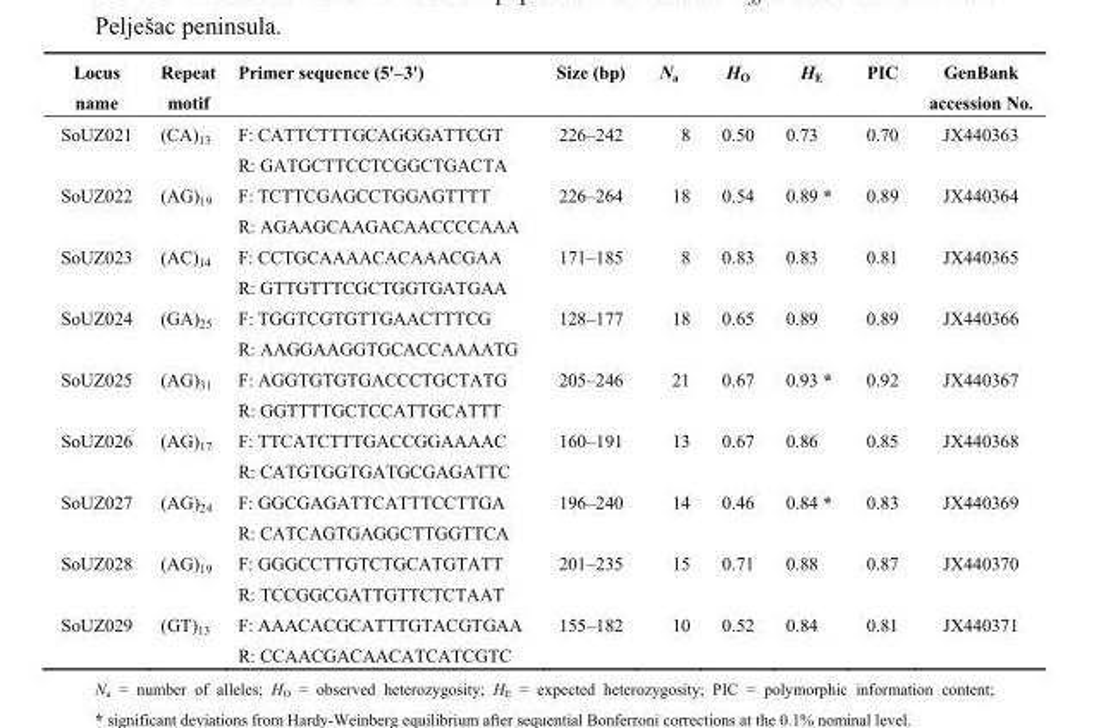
<table><thead><tr><td>Locus name</td><td>Repeat motif</td><td>Primer sequence (5&#x27;–3&#x27;)</td><td>Size (bp)</td><td>N<sub>a</sub></td><td>H<sub>O</sub></td><td>H<sub>E</sub></td><td>PIC</td><td>GenBank accession No.</td></tr></thead><tbody><tr><td>SoUZ021</td><td>(CA)<sub>13</sub></td><td>F: CATTCTTTGCAGGGATTCGT R: GATGCTTCCTCGGCTGACTA</td><td>226–242</td><td>8</td><td>0.50</td><td>0.73</td><td>0.70</td><td>JX440363</td></tr><tr><td>SoUZ022</td><td>(AG)<sub>19</sub></td><td>F: TCTTCGAGCCTGGAGTTTT R: AGAAGCAAGACAACCCCAAA</td><td>226–264</td><td>18</td><td>0.54</td><td>0.89 *</td><td>0.89</td><td>JX440364</td></tr><tr><td>SoUZ023</td><td>(AC)<sub>14</sub></td><td>F: CCTGCAAAACACAAACGAA R: GTTGTTTCGCTGGTGATGAA</td><td>171–185</td><td>8</td><td>0.83</td><td>0.83</td><td>0.81</td><td>JX440365</td></tr><tr><td>SoUZ024</td><td>(GA)<sub>25</sub></td><td>F: TGGTCGTGTTGAACTTTCG R: AAGGAAGGTGCACCAAAATG</td><td>128–177</td><td>18</td><td>0.65</td><td>0.89</td><td>0.89</td><td>JX440366</td></tr><tr><td>SoUZ025</td><td>(AG)<sub>31</sub></td><td>F: AGGTGTGTGACCCTGCTATG R: GGTTTTGCTCCATTGCATTT</td><td>205–246</td><td>21</td><td>0.67</td><td>0.93 *</td><td>0.92</td><td>JX440367</td></tr><tr><td>SoUZ026</td><td>(AG)<sub>17</sub></td><td>F: TTCATCTTTGACCGGAAAAC R: CATGTGGTGATGCGAGATTC</td><td>160–191</td><td>13</td><td>0.67</td><td>0.86</td><td>0.85</td><td>JX440368</td></tr><tr><td>SoUZ027</td><td>(AG)<sub>24</sub></td><td>F: GGCGAGATTCATTTCCTTGA R: CATCAGTGAGGCTTGGTTCA</td><td>196–240</td><td>14</td><td>0.46</td><td>0.84 *</td><td>0.83</td><td>JX440369</td></tr><tr><td>SoUZ028</td><td>(AG)<sub>19</sub></td><td>F: GGGCCTTGTCTGCATGTATT R: TCCGGCGATTGTTCTCTAAT</td><td>201–235</td><td>15</td><td>0.71</td><td>0.88</td><td>0.87</td><td>JX440370</td></tr><tr><td>SoUZ029</td><td>(GT)<sub>13</sub></td><td>F: AAACACGCATTTGTACGTGAA R: CCAACGACAACATCATCGTC</td><td>155–182</td><td>10</td><td>0.52</td><td>0.84</td><td>0.81</td><td>JX440371</td></tr></tbody></table>